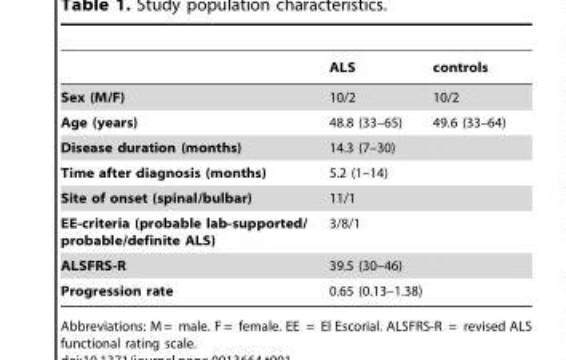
<table><thead><tr><td></td><td>ALS</td><td>controls</td></tr></thead><tbody><tr><td>Sex (M/F)</td><td>10/2</td><td>10/2</td></tr><tr><td>Age (years)</td><td>48.8 (33–65)</td><td>49.6 (33–64)</td></tr><tr><td>Disease duration (months)</td><td>14.3 (7–30)</td><td></td></tr><tr><td>Time after diagnosis (months)</td><td>5.2 (1–14)</td><td></td></tr><tr><td>Site of onset (spinal/bulbar)</td><td>11/1</td><td></td></tr><tr><td>EE-criteria (probable lab-supported/ probable/definite ALS)</td><td>3/8/1</td><td></td></tr><tr><td>ALSFRS-R</td><td>39.5 (30–46)</td><td></td></tr><tr><td>Progression rate</td><td>0.65 (0.13–1.38)</td><td></td></tr></tbody></table>